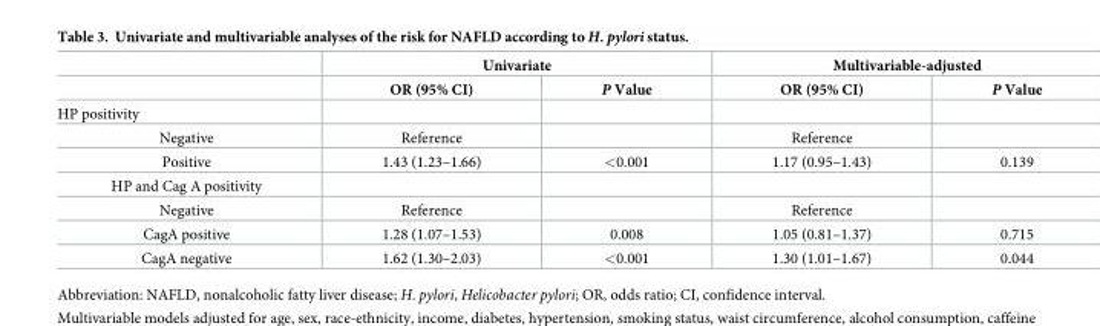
<table><thead><tr><td rowspan="2"></td><td colspan="2">Univariate</td><td colspan="2">Multivariable-adjusted</td></tr><tr><td>OR (95% CI)</td><td>P Value</td><td>OR (95% CI)</td><td>P Value</td></tr></thead><tbody><tr><td colspan="5">HP positivity</td></tr><tr><td>Negative</td><td>Reference</td><td></td><td>Reference</td><td></td></tr><tr><td>Positive</td><td>1.43 (1.23–1.66)</td><td>&lt;0.001</td><td>1.17 (0.95–1.43)</td><td>0.139</td></tr><tr><td colspan="5">HP and Cag A positivity</td></tr><tr><td>Negative</td><td>Reference</td><td></td><td>Reference</td><td></td></tr><tr><td>CagA positive</td><td>1.28 (1.07–1.53)</td><td>0.008</td><td>1.05 (0.81–1.37)</td><td>0.715</td></tr><tr><td>CagA negative</td><td>1.62 (1.30–2.03)</td><td>&lt;0.001</td><td>1.30 (1.01–1.67)</td><td>0.044</td></tr></tbody></table>